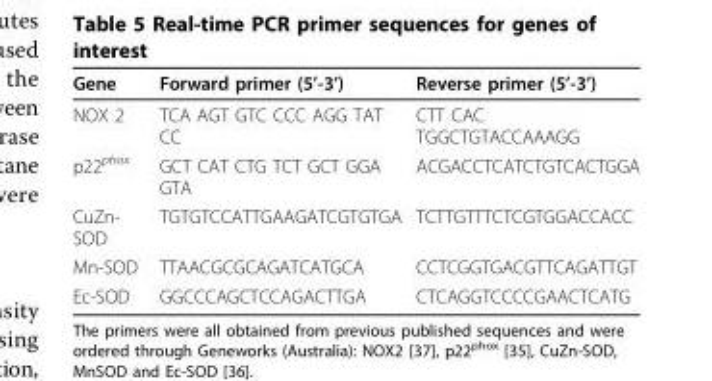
<table><thead><tr><td>Gene</td><td>Forward primer (5’-3’)</td><td>Reverse primer (5’-3’)</td></tr></thead><tbody><tr><td>NOX 2</td><td>TCA AGT GTC CCC AGG TAT CC</td><td>CTT CAC TGGCTGTACCAAAGG</td></tr><tr><td>p22<sup>phox</sup></td><td>GCT CAT CTG TCT GCT GGA GTA</td><td>ACGACCTCATCTGTCACTGGA</td></tr><tr><td>CuZn- SOD</td><td>TGTGTCCATTGAAGATCGTGTGA</td><td>TCTTGTTTCTCGTGGACCACC</td></tr><tr><td>Mn-SOD</td><td>TTAACGCGCAGATCATGCA</td><td>CCTCGGTGACGTTCAGATTGT</td></tr><tr><td>Ec-SOD</td><td>GGCCCAGCTCCAGACTTGA</td><td>CTCAGGTCCCCGAACTCATG</td></tr></tbody></table>